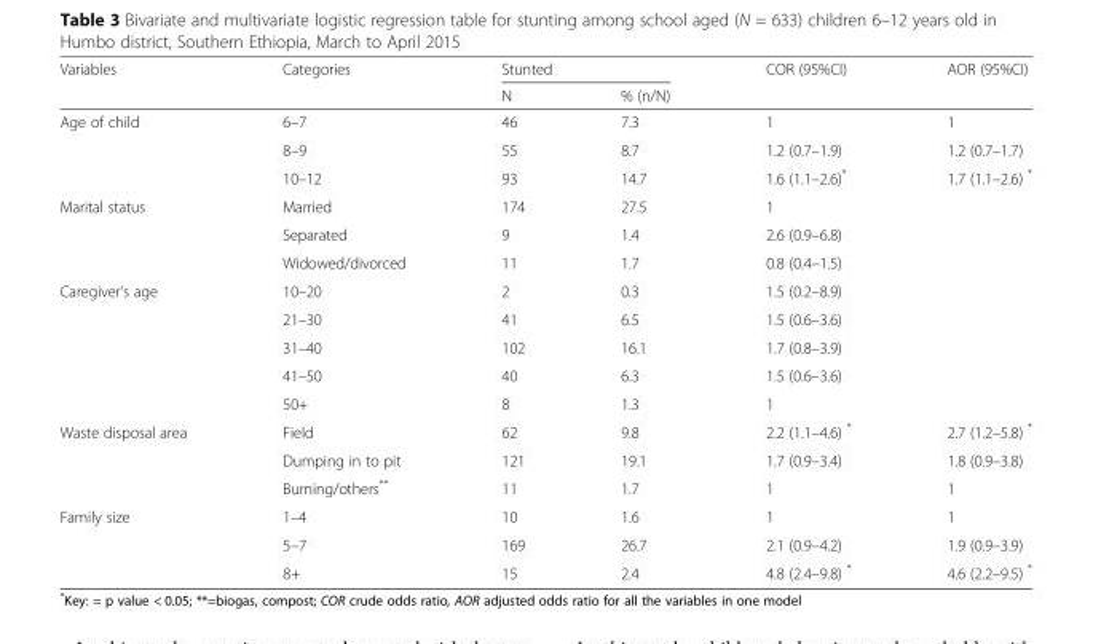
<table><thead><tr><td rowspan="2">Variables</td><td rowspan="2">Categories</td><td colspan="2">Stunted</td><td rowspan="2">COR (95%CI)</td><td rowspan="2">AOR (95%CI)</td></tr><tr><td>N</td><td>% (n/N)</td></tr></thead><tbody><tr><td rowspan="3">Age of child</td><td>6–7</td><td>46</td><td>7.3</td><td>1</td><td>1</td></tr><tr><td>8–9</td><td>55</td><td>8.7</td><td>1.2 (0.7–1.9)</td><td>1.2 (0.7–1.7)</td></tr><tr><td>10–12</td><td>93</td><td>14.7</td><td>1.6 (1.1–2.6)*</td><td>1.7 (1.1–2.6) *</td></tr><tr><td rowspan="3">Marital status</td><td>Married</td><td>174</td><td>27.5</td><td>1</td><td rowspan="8"></td></tr><tr><td>Separated</td><td>9</td><td>1.4</td><td>2.6 (0.9–6.8)</td></tr><tr><td>Widowed/divorced</td><td>11</td><td>1.7</td><td>0.8 (0.4–1.5)</td></tr><tr><td rowspan="5">Caregiver’s age</td><td>10–20</td><td>2</td><td>0.3</td><td>1.5 (0.2–8.9)</td></tr><tr><td>21–30</td><td>41</td><td>6.5</td><td>1.5 (0.6–3.6)</td></tr><tr><td>31–40</td><td>102</td><td>16.1</td><td>1.7 (0.8–3.9)</td></tr><tr><td>41–50</td><td>40</td><td>6.3</td><td>1.5 (0.6–3.6)</td></tr><tr><td>50+</td><td>8</td><td>1.3</td><td>1</td></tr><tr><td rowspan="3">Waste disposal area</td><td>Field</td><td>62</td><td>9.8</td><td>2.2 (1.1–4.6) *</td><td>2.7 (1.2–5.8) *</td></tr><tr><td>Dumping in to pit</td><td>121</td><td>19.1</td><td>1.7 (0.9–3.4)</td><td>1.8 (0.9–3.8)</td></tr><tr><td>Burning/others**</td><td>11</td><td>1.7</td><td>1</td><td>1</td></tr><tr><td rowspan="3">Family size</td><td>1–4</td><td>10</td><td>1.6</td><td>1</td><td>1</td></tr><tr><td>5–7</td><td>169</td><td>26.7</td><td>2.1 (0.9–4.2)</td><td>1.9 (0.9–3.9)</td></tr><tr><td>8+</td><td>15</td><td>2.4</td><td>4.8 (2.4–9.8) *</td><td>4.6 (2.2–9.5) *</td></tr></tbody></table>